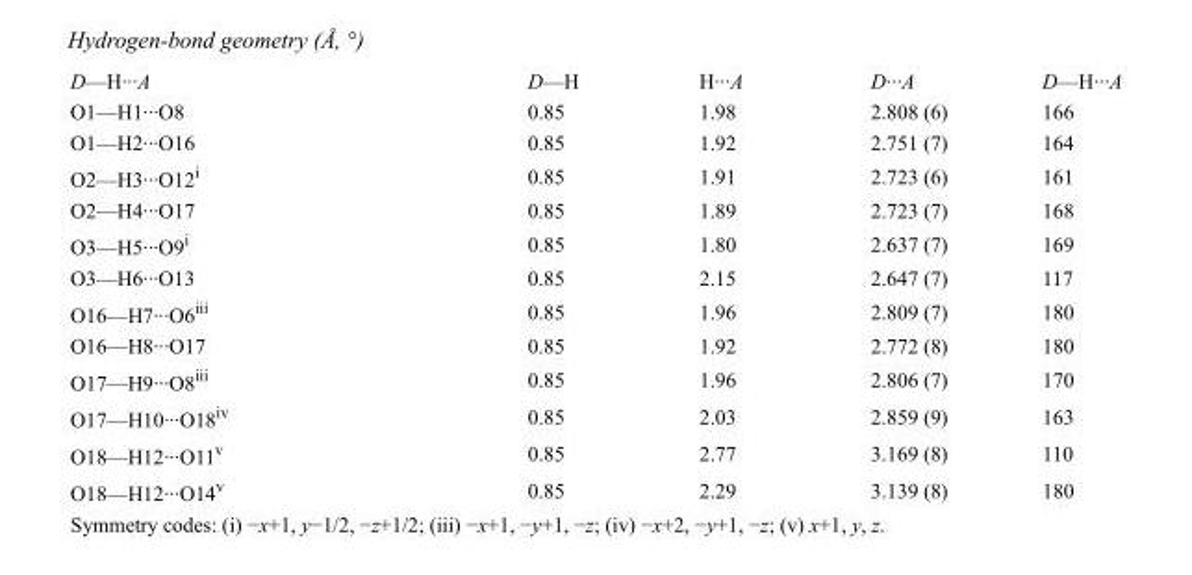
<table><tbody><tr><td>D—H···A</td><td>D—H</td><td>H···A</td><td>D···A</td><td>D—H···A</td></tr><tr><td>O1—H1···O8</td><td>0.85</td><td>1.98</td><td>2.808 (6)</td><td>166</td></tr><tr><td>O1—H2···O16</td><td>0.85</td><td>1.92</td><td>2.751 (7)</td><td>164</td></tr><tr><td>O2—H3···O12<sup>i</sup></td><td>0.85</td><td>1.91</td><td>2.723 (6)</td><td>161</td></tr><tr><td>O2—H4···O17</td><td>0.85</td><td>1.89</td><td>2.723 (7)</td><td>168</td></tr><tr><td>O3—H5···O9<sup>i</sup></td><td>0.85</td><td>1.80</td><td>2.637 (7)</td><td>169</td></tr><tr><td>O3—H6···O13</td><td>0.85</td><td>2.15</td><td>2.647 (7)</td><td>117</td></tr><tr><td>O16—H7···O6<sup>iii</sup></td><td>0.85</td><td>1.96</td><td>2.809 (7)</td><td>180</td></tr><tr><td>O16—H8···O17</td><td>0.85</td><td>1.92</td><td>2.772 (8)</td><td>180</td></tr><tr><td>O17—H9···O8<sup>iii</sup></td><td>0.85</td><td>1.96</td><td>2.806 (7)</td><td>170</td></tr><tr><td>O17—H10···O18<sup>iv</sup></td><td>0.85</td><td>2.03</td><td>2.859 (9)</td><td>163</td></tr><tr><td>O18—H12···O11<sup>v</sup></td><td>0.85</td><td>2.77</td><td>3.169 (8)</td><td>110</td></tr><tr><td>O18—H12···O14<sup>v</sup></td><td>0.85</td><td>2.29</td><td>3.139 (8)</td><td>180</td></tr></tbody></table>